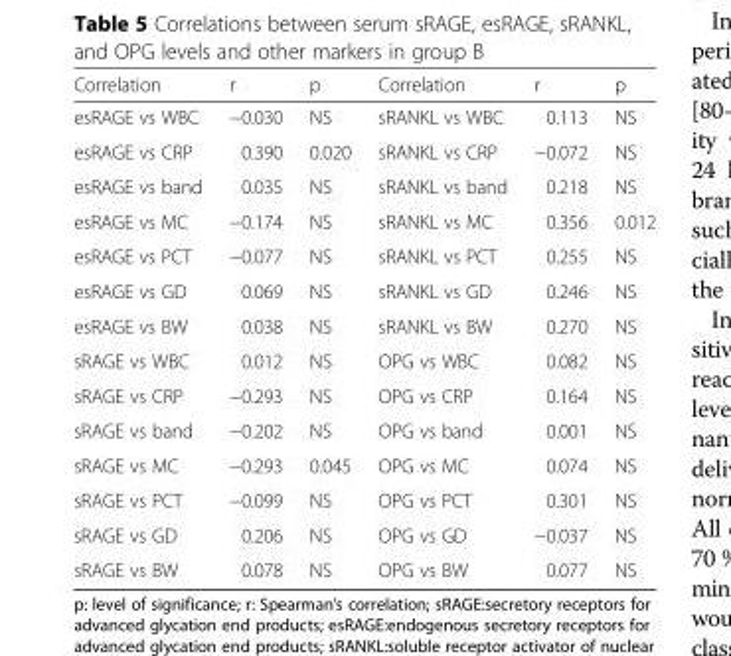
<table><thead><tr><td>Correlation</td><td>r</td><td>p</td><td>Correlation</td><td>r</td><td>p</td></tr></thead><tbody><tr><td>esRAGE vs WBC</td><td>−0.030</td><td>NS</td><td>sRANKL vs WBC</td><td>0.113</td><td>NS</td></tr><tr><td>esRAGE vs CRP</td><td>0.390</td><td>0.020</td><td>sRANKL vs CRP</td><td>−0.072</td><td>NS</td></tr><tr><td>esRAGE vs band</td><td>0.035</td><td>NS</td><td>sRANKL vs band</td><td>0.218</td><td>NS</td></tr><tr><td>esRAGE vs MC</td><td>−0.174</td><td>NS</td><td>sRANKL vs MC</td><td>0.356</td><td>0.012</td></tr><tr><td>esRAGE vs PCT</td><td>−0.077</td><td>NS</td><td>sRANKL vs PCT</td><td>0.255</td><td>NS</td></tr><tr><td>esRAGE vs GD</td><td>0.069</td><td>NS</td><td>sRANKL vs GD</td><td>0.246</td><td>NS</td></tr><tr><td>esRAGE vs BW</td><td>0.038</td><td>NS</td><td>sRANKL vs BW</td><td>0.270</td><td>NS</td></tr><tr><td>sRAGE vs WBC</td><td>0.012</td><td>NS</td><td>OPG vs WBC</td><td>0.082</td><td>NS</td></tr><tr><td>sRAGE vs CRP</td><td>−0.293</td><td>NS</td><td>OPG vs CRP</td><td>0.164</td><td>NS</td></tr><tr><td>sRAGE vs band</td><td>−0.202</td><td>NS</td><td>OPG vs band</td><td>0.001</td><td>NS</td></tr><tr><td>sRAGE vs MC</td><td>−0.293</td><td>0.045</td><td>OPG vs MC</td><td>0.074</td><td>NS</td></tr><tr><td>sRAGE vs PCT</td><td>−0.099</td><td>NS</td><td>OPG vs PCT</td><td>0.301</td><td>NS</td></tr><tr><td>sRAGE vs GD</td><td>0.206</td><td>NS</td><td>OPG vs GD</td><td>−0.037</td><td>NS</td></tr><tr><td>sRAGE vs BW</td><td>0.078</td><td>NS</td><td>OPG vs BW</td><td>0.077</td><td>NS</td></tr></tbody></table>